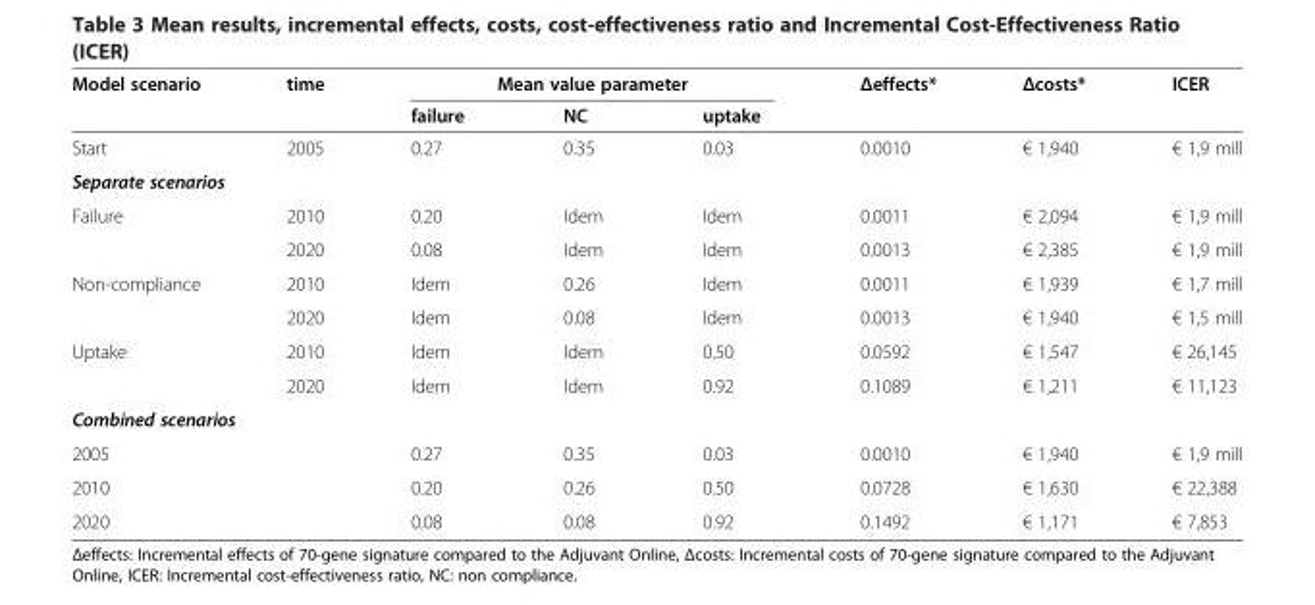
<table><thead><tr><td rowspan="2">Model scenario</td><td rowspan="2">time</td><td colspan="3">Mean value parameter</td><td rowspan="2">Δeffects*</td><td rowspan="2">Δcosts*</td><td rowspan="2">ICER</td></tr><tr><td>failure</td><td>NC</td><td>uptake</td></tr></thead><tbody><tr><td>Start</td><td>2005</td><td>0.27</td><td>0.35</td><td>0.03</td><td>0.0010</td><td>€ 1,940</td><td>€ 1,9 mill</td></tr><tr><td colspan="8">Separate scenarios</td></tr><tr><td rowspan="2">Failure</td><td>2010</td><td>0.20</td><td>Idem</td><td>Idem</td><td>0.0011</td><td>€ 2,094</td><td>€ 1,9 mill</td></tr><tr><td>2020</td><td>0.08</td><td>Idem</td><td>Idem</td><td>0.0013</td><td>€ 2,385</td><td>€ 1,9 mill</td></tr><tr><td rowspan="2">Non-compliance</td><td>2010</td><td>Idem</td><td>0.26</td><td>Idem</td><td>0.0011</td><td>€ 1,939</td><td>€ 1,7 mill</td></tr><tr><td>2020</td><td>Idem</td><td>0.08</td><td>Idem</td><td>0.0013</td><td>€ 1,940</td><td>€ 1,5 mill</td></tr><tr><td rowspan="2">Uptake</td><td>2010</td><td>Idem</td><td>Idem</td><td>0.50</td><td>0.0592</td><td>€ 1,547</td><td>€ 26,145</td></tr><tr><td>2020</td><td>Idem</td><td>Idem</td><td>0.92</td><td>0.1089</td><td>€ 1,211</td><td>€ 11,123</td></tr><tr><td colspan="8">Combined scenarios</td></tr><tr><td colspan="2">2005</td><td>0.27</td><td>0.35</td><td>0.03</td><td>0.0010</td><td>€ 1,940</td><td>€ 1,9 mill</td></tr><tr><td colspan="2">2010</td><td>0.20</td><td>0.26</td><td>0.50</td><td>0.0728</td><td>€ 1,630</td><td>€ 22,388</td></tr><tr><td colspan="2">2020</td><td>0.08</td><td>0.08</td><td>0.92</td><td>0.1492</td><td>€ 1,171</td><td>€ 7,853</td></tr></tbody></table>